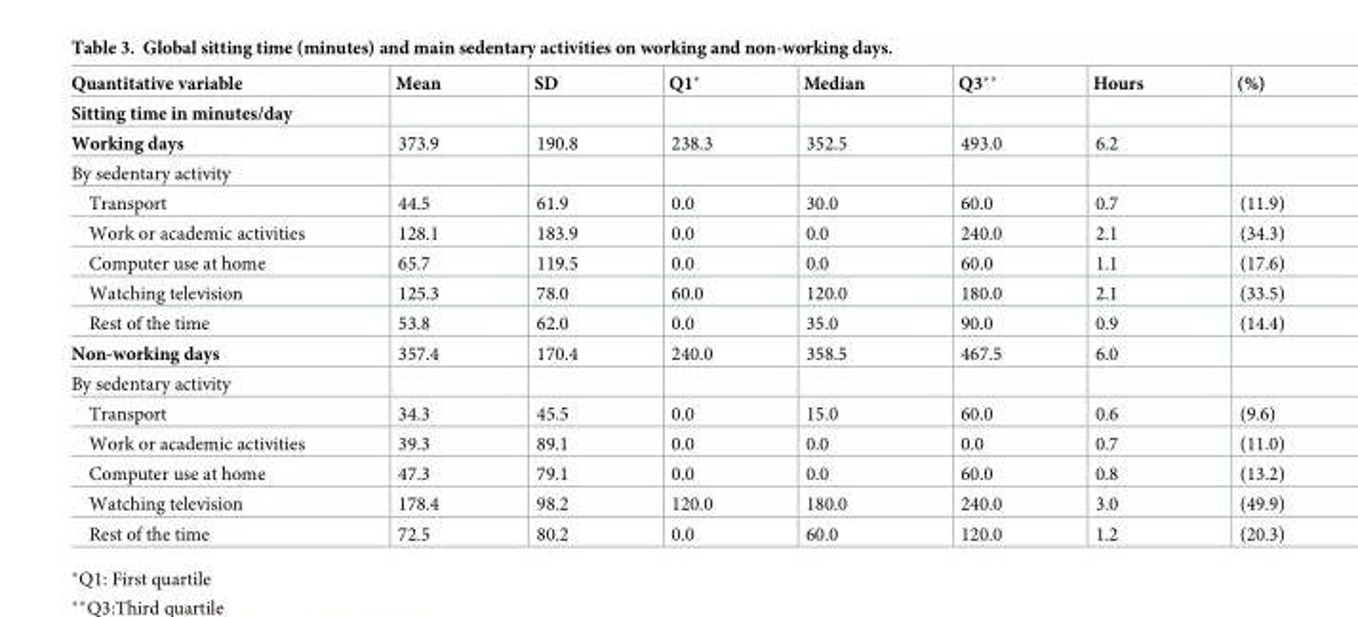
<table><thead><tr><td>Quantitative variable</td><td>Mean</td><td>SD</td><td>Q1*</td><td>Median</td><td>Q3**</td><td>Hours</td><td>(%)</td></tr></thead><tbody><tr><td colspan="8">Sitting time in minutes/day</td></tr><tr><td>Working days</td><td>373.9</td><td>190.8</td><td>238.3</td><td>352.5</td><td>493.0</td><td>6.2</td><td></td></tr><tr><td colspan="8">By sedentary activity</td></tr><tr><td>Transport</td><td>44.5</td><td>61.9</td><td>0.0</td><td>30.0</td><td>60.0</td><td>0.7</td><td>(11.9)</td></tr><tr><td>Work or academic activities</td><td>128.1</td><td>183.9</td><td>0.0</td><td>0.0</td><td>240.0</td><td>2.1</td><td>(34.3)</td></tr><tr><td>Computer use at home</td><td>65.7</td><td>119.5</td><td>0.0</td><td>0.0</td><td>60.0</td><td>1.1</td><td>(17.6)</td></tr><tr><td>Watching television</td><td>125.3</td><td>78.0</td><td>60.0</td><td>120.0</td><td>180.0</td><td>2.1</td><td>(33.5)</td></tr><tr><td>Rest of the time</td><td>53.8</td><td>62.0</td><td>0.0</td><td>35.0</td><td>90.0</td><td>0.9</td><td>(14.4)</td></tr><tr><td>Non-working days</td><td>357.4</td><td>170.4</td><td>240.0</td><td>358.5</td><td>467.5</td><td>6.0</td><td></td></tr><tr><td colspan="8">By sedentary activity</td></tr><tr><td>Transport</td><td>34.3</td><td>45.5</td><td>0.0</td><td>15.0</td><td>60.0</td><td>0.6</td><td>(9.6)</td></tr><tr><td>Work or academic activities</td><td>39.3</td><td>89.1</td><td>0.0</td><td>0.0</td><td>0.0</td><td>0.7</td><td>(11.0)</td></tr><tr><td>Computer use at home</td><td>47.3</td><td>79.1</td><td>0.0</td><td>0.0</td><td>60.0</td><td>0.8</td><td>(13.2)</td></tr><tr><td>Watching television</td><td>178.4</td><td>98.2</td><td>120.0</td><td>180.0</td><td>240.0</td><td>3.0</td><td>(49.9)</td></tr><tr><td>Rest of the time</td><td>72.5</td><td>80.2</td><td>0.0</td><td>60.0</td><td>120.0</td><td>1.2</td><td>(20.3)</td></tr></tbody></table>